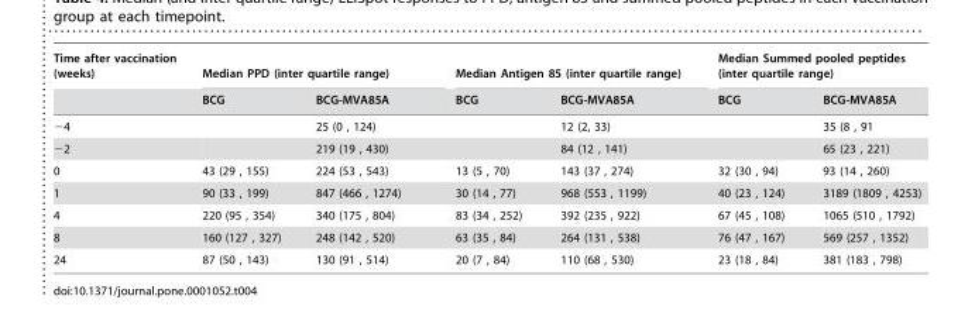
<table><thead><tr><td rowspan="2">Time after vaccination (weeks)</td><td colspan="2">Median PPD (inter quartile range)</td><td colspan="2">Median Antigen 85 (inter quartile range)</td><td colspan="2">Median Summed pooled peptides (inter quartile range)</td></tr><tr><td>BCG</td><td>BCG-MVA85A</td><td>BCG</td><td>BCG-MVA85A</td><td>BCG</td><td>BCG-MVA85A</td></tr></thead><tbody><tr><td>−4</td><td></td><td>25 (0 , 124)</td><td></td><td>12 (2, 33)</td><td></td><td>35 (8 , 91</td></tr><tr><td>−2</td><td></td><td>219 (19 , 430)</td><td></td><td>84 (12 , 141)</td><td></td><td>65 (23 , 221)</td></tr><tr><td>0</td><td>43 (29 , 155)</td><td>224 (53 , 543)</td><td>13 (5 , 70)</td><td>143 (37 , 274)</td><td>32 (30 , 94)</td><td>93 (14 , 260)</td></tr><tr><td>1</td><td>90 (33 , 199)</td><td>847 (466 , 1274)</td><td>30 (14 , 77)</td><td>968 (553 , 1199)</td><td>40 (23 , 124)</td><td>3189 (1809 , 4253)</td></tr><tr><td>4</td><td>220 (95 , 354)</td><td>340 (175 , 804)</td><td>83 (34 , 252)</td><td>392 (235 , 922)</td><td>67 (45 , 108)</td><td>1065 (510 , 1792)</td></tr><tr><td>8</td><td>160 (127 , 327)</td><td>248 (142 , 520)</td><td>63 (35 , 84)</td><td>264 (131 , 538)</td><td>76 (47 , 167)</td><td>569 (257 , 1352)</td></tr><tr><td>24</td><td>87 (50 , 143)</td><td>130 (91 , 514)</td><td>20 (7 , 84)</td><td>110 (68 , 530)</td><td>23 (18 , 84)</td><td>381 (183 , 798)</td></tr></tbody></table>